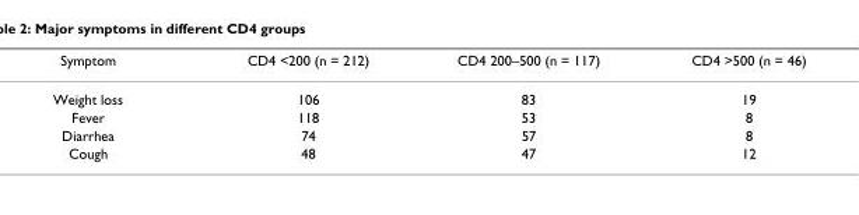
<table><thead><tr><td>Symptom</td><td>CD4 &lt;200 (n = 212)</td><td>CD4 200–500 (n = 117)</td><td>CD4 &gt;500 (n = 46)</td></tr></thead><tbody><tr><td>Weight loss</td><td>106</td><td>83</td><td>19</td></tr><tr><td>Fever</td><td>118</td><td>53</td><td>8</td></tr><tr><td>Diarrhea</td><td>74</td><td>57</td><td>8</td></tr><tr><td>Cough</td><td>48</td><td>47</td><td>12</td></tr></tbody></table>